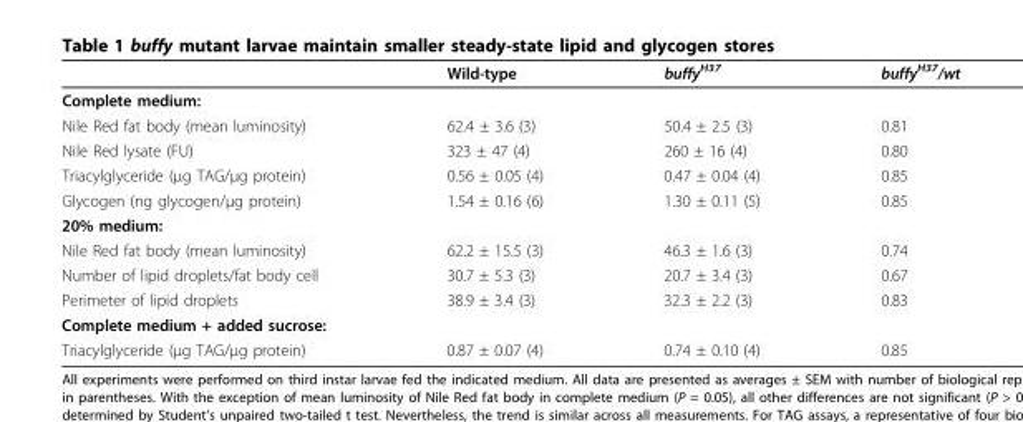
<table><thead><tr><td></td><td>Wild-type</td><td>buffy<sup>H37</sup></td><td>buffy<sup>H37</sup>/wt</td></tr></thead><tbody><tr><td colspan="4">Complete medium:</td></tr><tr><td>Nile Red fat body (mean luminosity)</td><td>62.4 ± 3.6 (3)</td><td>50.4 ± 2.5 (3)</td><td>0.81</td></tr><tr><td>Nile Red lysate (FU)</td><td>323 ± 47 (4)</td><td>260 ± 16 (4)</td><td>0.80</td></tr><tr><td>Triacylglyceride (μg TAG/μg protein)</td><td>0.56 ± 0.05 (4)</td><td>0.47 ± 0.04 (4)</td><td>0.85</td></tr><tr><td>Glycogen (ng glycogen/μg protein)</td><td>1.54 ± 0.16 (6)</td><td>1.30 ± 0.11 (5)</td><td>0.85</td></tr><tr><td colspan="4">20% medium:</td></tr><tr><td>Nile Red fat body (mean luminosity)</td><td>62.2 ± 15.5 (3)</td><td>46.3 ± 1.6 (3)</td><td>0.74</td></tr><tr><td>Number of lipid droplets/fat body cell</td><td>30.7 ± 5.3 (3)</td><td>20.7 ± 3.4 (3)</td><td>0.67</td></tr><tr><td>Perimeter of lipid droplets</td><td>38.9 ± 3.4 (3)</td><td>32.3 ± 2.2 (3)</td><td>0.83</td></tr><tr><td colspan="4">Complete medium + added sucrose:</td></tr><tr><td>Triacylglyceride (μg TAG/μg protein)</td><td>0.87 ± 0.07 (4)</td><td>0.74 ± 0.10 (4)</td><td>0.85</td></tr></tbody></table>